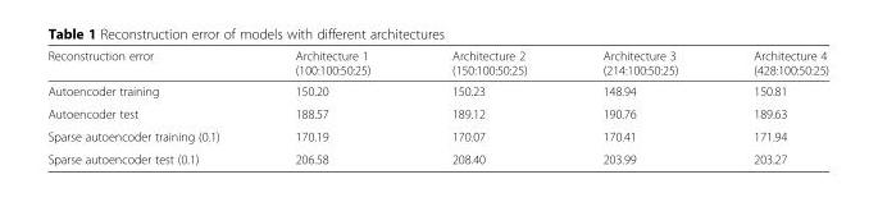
<table><thead><tr><td>Reconstruction error</td><td>Architecture 1 (100:100:50:25)</td><td>Architecture 2 (150:100:50:25)</td><td>Architecture 3 (214:100:50:25)</td><td>Architecture 4 (428:100:50:25)</td></tr></thead><tbody><tr><td>Autoencoder training</td><td>150.20</td><td>150.23</td><td>148.94</td><td>150.81</td></tr><tr><td>Autoencoder test</td><td>188.57</td><td>189.12</td><td>190.76</td><td>189.63</td></tr><tr><td>Sparse autoencoder training (0.1)</td><td>170.19</td><td>170.07</td><td>170.41</td><td>171.94</td></tr><tr><td>Sparse autoencoder test (0.1)</td><td>206.58</td><td>208.40</td><td>203.99</td><td>203.27</td></tr></tbody></table>